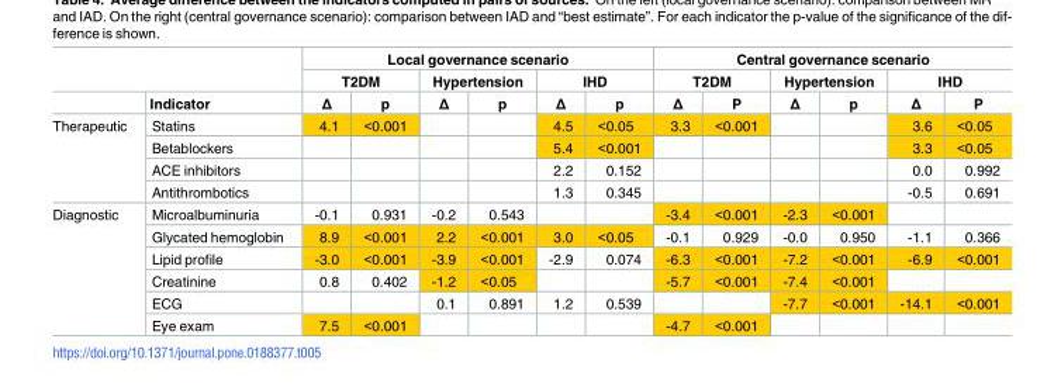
<table><thead><tr><td rowspan="3"></td><td rowspan="3">Indicator</td><td colspan="6">Local governance scenario</td><td colspan="6">Central governance scenario</td></tr><tr><td colspan="2">T2DM</td><td colspan="2">Hypertension</td><td colspan="2">IHD</td><td colspan="2">T2DM</td><td colspan="2">Hypertension</td><td colspan="2">IHD</td></tr><tr><td>Δ</td><td>p</td><td>Δ</td><td>p</td><td>Δ</td><td>p</td><td>Δ</td><td>P</td><td>Δ</td><td>p</td><td>Δ</td><td>P</td></tr></thead><tbody><tr><td rowspan="4">Therapeutic</td><td>Statins</td><td>4.1</td><td>&lt;0.001</td><td></td><td></td><td>4.5</td><td>&lt;0.05</td><td>3.3</td><td>&lt;0.001</td><td></td><td></td><td>3.6</td><td>&lt;0.05</td></tr><tr><td>Betablockers</td><td></td><td></td><td></td><td></td><td>5.4</td><td>&lt;0.001</td><td></td><td></td><td></td><td></td><td>3.3</td><td>&lt;0.05</td></tr><tr><td>ACE inhibitors</td><td></td><td></td><td></td><td></td><td>2.2</td><td>0.152</td><td></td><td></td><td></td><td></td><td>0.0</td><td>0.992</td></tr><tr><td>Antithrombotics</td><td></td><td></td><td></td><td></td><td>1.3</td><td>0.345</td><td></td><td></td><td></td><td></td><td>-0.5</td><td>0.691</td></tr><tr><td rowspan="6">Diagnostic</td><td>Microalbuminuria</td><td>-0.1</td><td>0.931</td><td>-0.2</td><td>0.543</td><td></td><td></td><td>-3.4</td><td>&lt;0.001</td><td>-2.3</td><td>&lt;0.001</td><td></td><td></td></tr><tr><td>Glycated hemoglobin</td><td>8.9</td><td>&lt;0.001</td><td>2.2</td><td>&lt;0.001</td><td>3.0</td><td>&lt;0.05</td><td>-0.1</td><td>0.929</td><td>-0.0</td><td>0.950</td><td>-1.1</td><td>0.366</td></tr><tr><td>Lipid profile</td><td>-3.0</td><td>&lt;0.001</td><td>-3.9</td><td>&lt;0.001</td><td>-2.9</td><td>0.074</td><td>-6.3</td><td>&lt;0.001</td><td>-7.2</td><td>&lt;0.001</td><td>-6.9</td><td>&lt;0.001</td></tr><tr><td>Creatinine</td><td>0.8</td><td>0.402</td><td>-1.2</td><td>&lt;0.05</td><td></td><td></td><td>-5.7</td><td>&lt;0.001</td><td>-7.4</td><td>&lt;0.001</td><td></td><td></td></tr><tr><td>ECG</td><td></td><td></td><td>0.1</td><td>0.891</td><td>1.2</td><td>0.539</td><td></td><td></td><td>-7.7</td><td>&lt;0.001</td><td>-14.1</td><td>&lt;0.001</td></tr><tr><td>Eye exam</td><td>7.5</td><td>&lt;0.001</td><td></td><td></td><td></td><td></td><td>-4.7</td><td>&lt;0.001</td><td></td><td></td><td></td><td></td></tr></tbody></table>